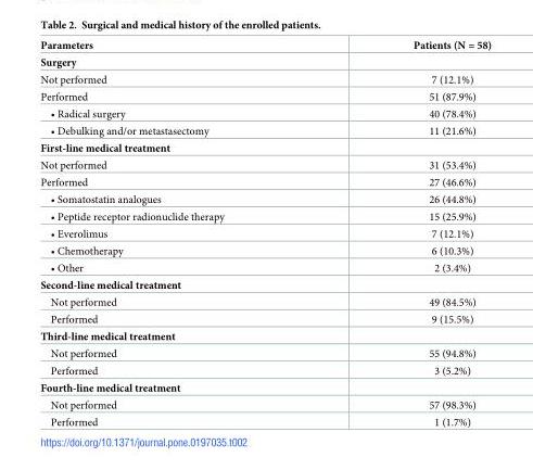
<table><thead><tr><td>Parameters</td><td>Patients (N = 58)</td></tr></thead><tbody><tr><td colspan="2">Surgery</td></tr><tr><td>Not performed</td><td>7 (12.1%)</td></tr><tr><td>Performed</td><td>51 (87.9%)</td></tr><tr><td>• Radical surgery</td><td>40 (78.4%)</td></tr><tr><td>• Debulking and/or metastasectomy</td><td>11 (21.6%)</td></tr><tr><td colspan="2">First-line medical treatment</td></tr><tr><td>Not performed</td><td>31 (53.4%)</td></tr><tr><td>Performed</td><td>27 (46.6%)</td></tr><tr><td>• Somatostatin analogues</td><td>26 (44.8%)</td></tr><tr><td>• Peptide receptor radionuclide therapy</td><td>15 (25.9%)</td></tr><tr><td>• Everolimus</td><td>7 (12.1%)</td></tr><tr><td>• Chemotherapy</td><td>6 (10.3%)</td></tr><tr><td>• Other</td><td>2 (3.4%)</td></tr><tr><td colspan="2">Second-line medical treatment</td></tr><tr><td>Not performed</td><td>49 (84.5%)</td></tr><tr><td>Performed</td><td>9 (15.5%)</td></tr><tr><td colspan="2">Third-line medical treatment</td></tr><tr><td>Not performed</td><td>55 (94.8%)</td></tr><tr><td>Performed</td><td>3 (5.2%)</td></tr><tr><td colspan="2">Fourth-line medical treatment</td></tr><tr><td>Not performed</td><td>57 (98.3%)</td></tr><tr><td>Performed</td><td>1 (1.7%)</td></tr></tbody></table>